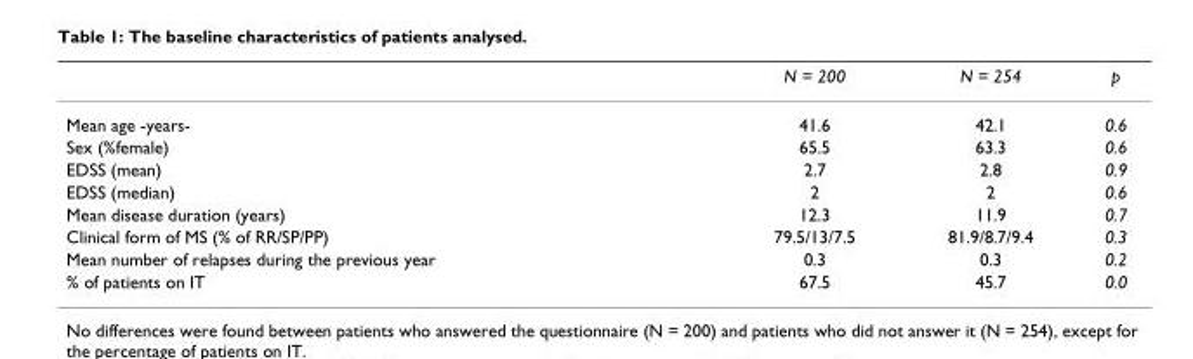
<table><thead><tr><td></td><td>N = 200</td><td>N = 254</td><td>p</td></tr></thead><tbody><tr><td>Mean age -years-</td><td>41.6</td><td>42.1</td><td>0.6</td></tr><tr><td>Sex (%female)</td><td>65.5</td><td>63.3</td><td>0.6</td></tr><tr><td>EDSS (mean)</td><td>2.7</td><td>2.8</td><td>0.9</td></tr><tr><td>EDSS (median)</td><td>2</td><td>2</td><td>0.6</td></tr><tr><td>Mean disease duration (years)</td><td>12.3</td><td>11.9</td><td>0.7</td></tr><tr><td>Clinical form of MS (% of RR/SP/PP)</td><td>79.5/13/7.5</td><td>81.9/8.7/9.4</td><td>0.3</td></tr><tr><td>Mean number of relapses during the previous year</td><td>0.3</td><td>0.3</td><td>0.2</td></tr><tr><td>% of patients on IT</td><td>67.5</td><td>45.7</td><td>0.0</td></tr></tbody></table>